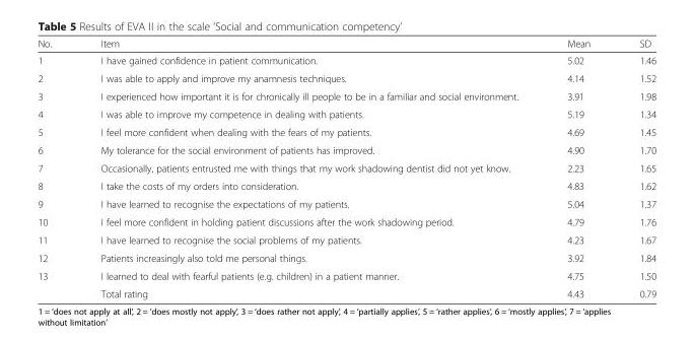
<table><thead><tr><td>No.</td><td>Item</td><td>Mean</td><td>SD</td></tr></thead><tbody><tr><td>1</td><td>I have gained confidence in patient communication.</td><td>5.02</td><td>1.46</td></tr><tr><td>2</td><td>I was able to apply and improve my anamnesis techniques.</td><td>4.14</td><td>1.52</td></tr><tr><td>3</td><td>I experienced how important it is for chronically ill people to be in a familiar and social environment.</td><td>3.91</td><td>1.98</td></tr><tr><td>4</td><td>I was able to improve my competence in dealing with patients.</td><td>5.19</td><td>1.34</td></tr><tr><td>5</td><td>I feel more confident when dealing with the fears of my patients.</td><td>4.69</td><td>1.45</td></tr><tr><td>6</td><td>My tolerance for the social environment of patients has improved.</td><td>4.90</td><td>1.70</td></tr><tr><td>7</td><td>Occasionally, patients entrusted me with things that my work shadowing dentist did not yet know.</td><td>2.23</td><td>1.65</td></tr><tr><td>8</td><td>I take the costs of my orders into consideration.</td><td>4.83</td><td>1.62</td></tr><tr><td>9</td><td>I have learned to recognise the expectations of my patients.</td><td>5.04</td><td>1.37</td></tr><tr><td>10</td><td>I feel more confident in holding patient discussions after the work shadowing period.</td><td>4.79</td><td>1.76</td></tr><tr><td>11</td><td>I have learned to recognise the social problems of my patients.</td><td>4.23</td><td>1.67</td></tr><tr><td>12</td><td>Patients increasingly also told me personal things.</td><td>3.92</td><td>1.84</td></tr><tr><td rowspan="2">13</td><td>I learned to deal with fearful patients (e.g. children) in a patient manner.</td><td>4.75</td><td>1.50</td></tr><tr><td>Total rating</td><td>4.43</td><td>0.79</td></tr></tbody></table>